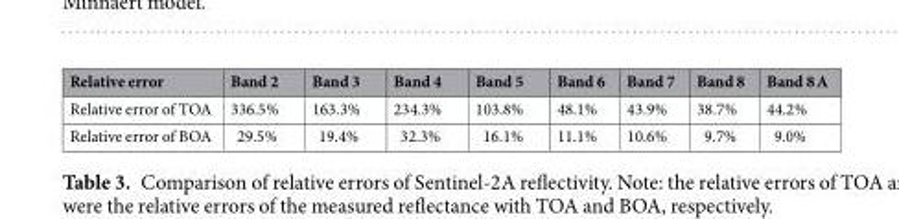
<table><thead><tr><td>Relative error</td><td>Band 2</td><td>Band 3</td><td>Band 4</td><td>Band 5</td><td>Band 6</td><td>Band 7</td><td>Band 8</td><td>Band 8 A</td></tr></thead><tbody><tr><td>Relative error of TOA</td><td>336.5%</td><td>163.3%</td><td>234.3%</td><td>103.8%</td><td>48.1%</td><td>43.9%</td><td>38.7%</td><td>44.2%</td></tr><tr><td>Relative error of BOA</td><td>29.5%</td><td>19.4%</td><td>32.3%</td><td>16.1%</td><td>11.1%</td><td>10.6%</td><td>9.7%</td><td>9.0%</td></tr></tbody></table>